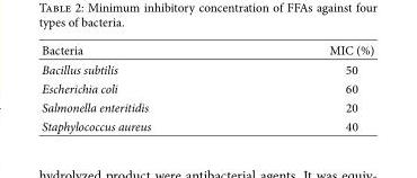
<table><thead><tr><td>Bacteria</td><td>MIC (%)</td></tr></thead><tbody><tr><td>Bacillus subtilis</td><td>50</td></tr><tr><td>Escherichia coli</td><td>60</td></tr><tr><td>Salmonella enteritidis</td><td>20</td></tr><tr><td>Staphylococcus aureus</td><td>40</td></tr></tbody></table>